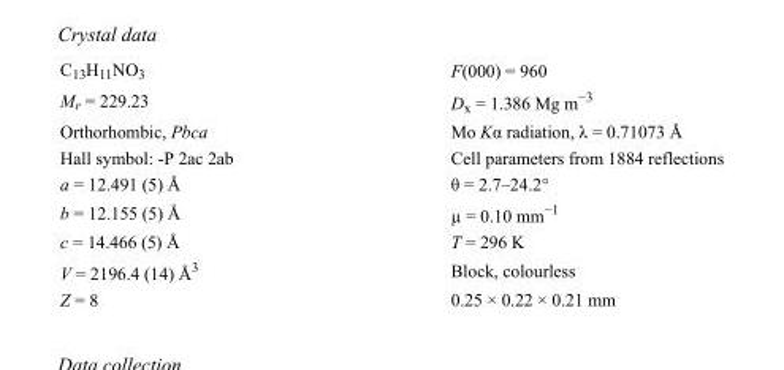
<table><tbody><tr><td>C<sub>13</sub>H<sub>11</sub>NO<sub>3</sub></td><td>F(000) = 960</td></tr><tr><td>M<sub>r</sub> = 229.23</td><td>D<sub>x</sub> = 1.386 Mg m<sup>−3</sup></td></tr><tr><td>Orthorhombic, Pbca</td><td>Mo Kα radiation, λ = 0.71073 Å</td></tr><tr><td>Hall symbol: -P 2ac 2ab</td><td>Cell parameters from 1884 reflections</td></tr><tr><td>a = 12.491 (5) Å</td><td>θ = 2.7–24.2°</td></tr><tr><td>b = 12.155 (5) Å</td><td>µ = 0.10 mm<sup>−1</sup></td></tr><tr><td>c = 14.466 (5) Å</td><td>T = 296 K</td></tr><tr><td>V = 2196.4 (14) Å<sup>3</sup></td><td>Block, colourless</td></tr><tr><td>Z = 8</td><td>0.25 × 0.22 × 0.21 mm</td></tr></tbody></table>